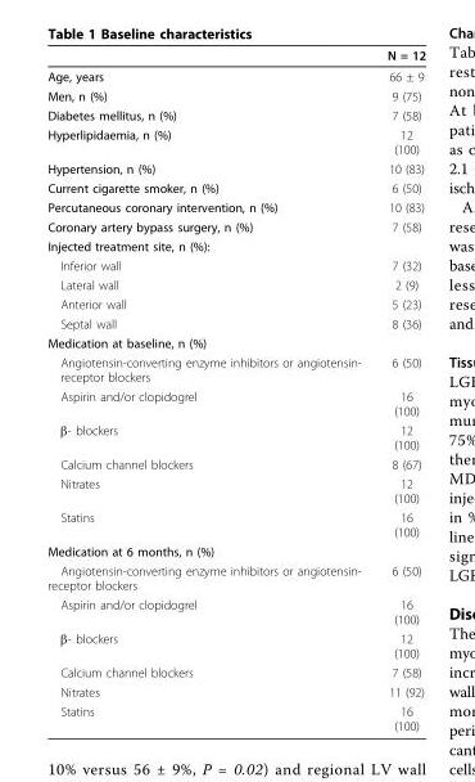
<table><thead><tr><td></td><td>N = 12</td></tr></thead><tbody><tr><td>Age, years</td><td>66 ± 9</td></tr><tr><td>Men, n (%)</td><td>9 (75)</td></tr><tr><td>Diabetes mellitus, n (%)</td><td>7 (58)</td></tr><tr><td>Hyperlipidaemia, n (%)</td><td>12 (100)</td></tr><tr><td>Hypertension, n (%)</td><td>10 (83)</td></tr><tr><td>Current cigarette smoker, n (%)</td><td>6 (50)</td></tr><tr><td>Percutaneous coronary intervention, n (%)</td><td>10 (83)</td></tr><tr><td>Coronary artery bypass surgery, n (%)</td><td>7 (58)</td></tr><tr><td colspan="2">Injected treatment site, n (%):</td></tr><tr><td>Inferior wall</td><td>7 (32)</td></tr><tr><td>Lateral wall</td><td>2 (9)</td></tr><tr><td>Anterior wall</td><td>5 (23)</td></tr><tr><td>Septal wall</td><td>8 (36)</td></tr><tr><td colspan="2">Medication at baseline, n (%)</td></tr><tr><td>Angiotensin-converting enzyme inhibitors or angiotensin- receptor blockers</td><td>6 (50)</td></tr><tr><td>Aspirin and/or clopidogrel</td><td>16 (100)</td></tr><tr><td>β- blockers</td><td>12 (100)</td></tr><tr><td>Calcium channel blockers</td><td>8 (67)</td></tr><tr><td>Nitrates</td><td>12 (100)</td></tr><tr><td>Statins</td><td>16 (100)</td></tr><tr><td colspan="2">Medication at 6 months, n (%)</td></tr><tr><td>Angiotensin-converting enzyme inhibitors or angiotensin- receptor blockers</td><td>6 (50)</td></tr><tr><td>Aspirin and/or clopidogrel</td><td>16 (100)</td></tr><tr><td>β- blockers</td><td>12 (100)</td></tr><tr><td>Calcium channel blockers</td><td>7 (58)</td></tr><tr><td>Nitrates</td><td>11 (92)</td></tr><tr><td>Statins</td><td>16 (100)</td></tr></tbody></table>